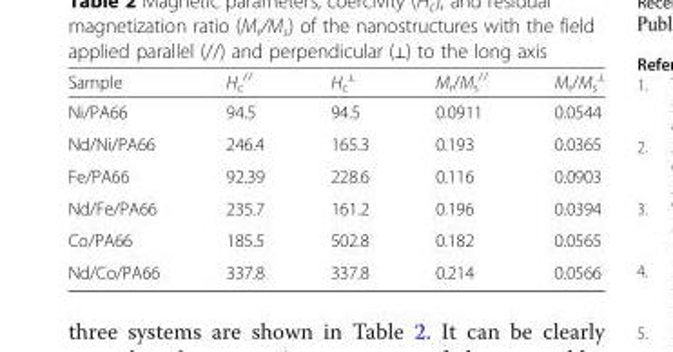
<table><thead><tr><td>Sample</td><td>H<sub>c</sub> <sup>//</sup></td><td>H<sub>c</sub> <sup>⊥</sup></td><td>M<sub>r</sub>/M<sub>s</sub> <sup>//</sup></td><td>M<sub>r</sub>/M<sub>s</sub> <sup>⊥</sup></td></tr></thead><tbody><tr><td>Ni/PA66</td><td>94.5</td><td>94.5</td><td>0.0911</td><td>0.0544</td></tr><tr><td>Nd/Ni/PA66</td><td>246.4</td><td>165.3</td><td>0.193</td><td>0.0365</td></tr><tr><td>Fe/PA66</td><td>92.39</td><td>228.6</td><td>0.116</td><td>0.0903</td></tr><tr><td>Nd/Fe/PA66</td><td>235.7</td><td>161.2</td><td>0.196</td><td>0.0394</td></tr><tr><td>Co/PA66</td><td>185.5</td><td>502.8</td><td>0.182</td><td>0.0565</td></tr><tr><td>Nd/Co/PA66</td><td>337.8</td><td>337.8</td><td>0.214</td><td>0.0566</td></tr></tbody></table>